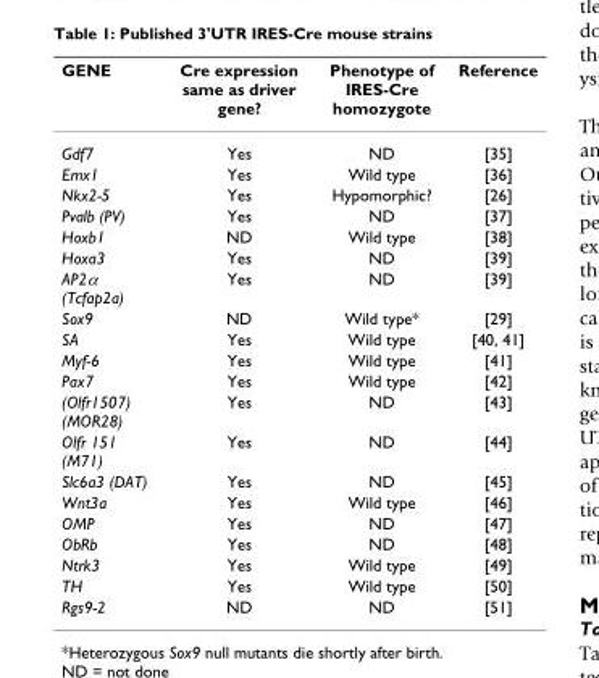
<table><thead><tr><td>GENE</td><td>Cre expression same as driver gene?</td><td>Phenotype of IRES-Cre homozygote</td><td>Reference</td></tr></thead><tbody><tr><td>Gdf7</td><td>Yes</td><td>ND</td><td>[35]</td></tr><tr><td>Emx1</td><td>Yes</td><td>Wild type</td><td>[36]</td></tr><tr><td>Nkx2-5</td><td>Yes</td><td>Hypomorphic?</td><td>[26]</td></tr><tr><td>Pvalb (PV)</td><td>Yes</td><td>ND</td><td>[37]</td></tr><tr><td>Hoxb1</td><td>ND</td><td>Wild type</td><td>[38]</td></tr><tr><td>Hoxa3</td><td>Yes</td><td>ND</td><td>[39]</td></tr><tr><td>AP2α (Tcfap2a)</td><td>Yes</td><td>ND</td><td>[39]</td></tr><tr><td>Sox9</td><td>ND</td><td>Wild type*</td><td>[29]</td></tr><tr><td>SA</td><td>Yes</td><td>Wild type</td><td>[40, 41]</td></tr><tr><td>Myf-6</td><td>Yes</td><td>Wild type</td><td>[41]</td></tr><tr><td>Pax7</td><td>Yes</td><td>Wild type</td><td>[42]</td></tr><tr><td>(Olfr1507) (MOR28)</td><td>Yes</td><td>ND</td><td>[43]</td></tr><tr><td>Olfr 151 (M71)</td><td>Yes</td><td>ND</td><td>[44]</td></tr><tr><td>Slc6a3 (DAT)</td><td>Yes</td><td>ND</td><td>[45]</td></tr><tr><td>Wnt3a</td><td>Yes</td><td>Wild type</td><td>[46]</td></tr><tr><td>OMP</td><td>Yes</td><td>ND</td><td>[47]</td></tr><tr><td>ObRb</td><td>Yes</td><td>ND</td><td>[48]</td></tr><tr><td>Ntrk3</td><td>Yes</td><td>Wild type</td><td>[49]</td></tr><tr><td>TH</td><td>Yes</td><td>Wild type</td><td>[50]</td></tr><tr><td>Rgs9-2</td><td>ND</td><td>ND</td><td>[51]</td></tr></tbody></table>